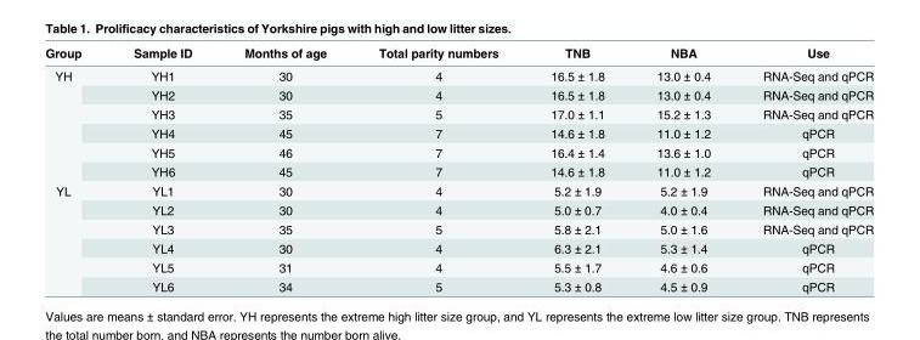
<table><thead><tr><td>Group</td><td>Sample ID</td><td>Months of age</td><td>Total parity numbers</td><td>TNB</td><td>NBA</td><td>Use</td></tr></thead><tbody><tr><td rowspan="6">YH</td><td>YH1</td><td>30</td><td>4</td><td>16.5 ± 1.8</td><td>13.0 ± 0.4</td><td>RNA-Seq and qPCR</td></tr><tr><td>YH2</td><td>30</td><td>4</td><td>16.5 ± 1.8</td><td>13.0 ± 0.4</td><td>RNA-Seq and qPCR</td></tr><tr><td>YH3</td><td>35</td><td>5</td><td>17.0 ± 1.1</td><td>15.2 ± 1.3</td><td>RNA-Seq and qPCR</td></tr><tr><td>YH4</td><td>45</td><td>7</td><td>14.6 ± 1.8</td><td>11.0 ± 1.2</td><td>qPCR</td></tr><tr><td>YH5</td><td>46</td><td>7</td><td>16.4 ± 1.4</td><td>13.6 ± 1.0</td><td>qPCR</td></tr><tr><td>YH6</td><td>45</td><td>7</td><td>14.6 ± 1.8</td><td>11.0 ± 1.2</td><td>qPCR</td></tr><tr><td rowspan="6">YL</td><td>YL1</td><td>30</td><td>4</td><td>5.2 ± 1.9</td><td>5.2 ± 1.9</td><td>RNA-Seq and qPCR</td></tr><tr><td>YL2</td><td>30</td><td>4</td><td>5.0 ± 0.7</td><td>4.0 ± 0.4</td><td>RNA-Seq and qPCR</td></tr><tr><td>YL3</td><td>35</td><td>5</td><td>5.8 ± 2.1</td><td>5.0 ± 1.6</td><td>RNA-Seq and qPCR</td></tr><tr><td>YL4</td><td>30</td><td>4</td><td>6.3 ± 2.1</td><td>5.3 ± 1.4</td><td>qPCR</td></tr><tr><td>YL5</td><td>31</td><td>4</td><td>5.5 ± 1.7</td><td>4.6 ± 0.6</td><td>qPCR</td></tr><tr><td>YL6</td><td>34</td><td>5</td><td>5.3 ± 0.8</td><td>4.5 ± 0.9</td><td>qPCR</td></tr></tbody></table>